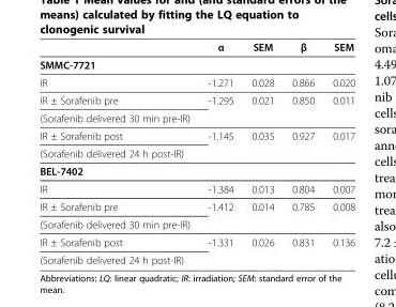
<table><thead><tr><td></td><td>α</td><td>SEM</td><td>β</td><td>SEM</td></tr></thead><tbody><tr><td colspan="5">SMMC-7721</td></tr><tr><td>IR</td><td>-1.271</td><td>0.028</td><td>0.866</td><td>0.020</td></tr><tr><td>IR ± Sorafenib pre</td><td rowspan="2">-1.295</td><td rowspan="2">0.021</td><td rowspan="2">0.850</td><td rowspan="2">0.011</td></tr><tr><td>(Sorafenib delivered 30 min pre-IR)</td></tr><tr><td>IR ± Sorafenib post</td><td rowspan="2">-1.145</td><td rowspan="2">0.035</td><td rowspan="2">0.927</td><td rowspan="2">0.017</td></tr><tr><td>(Sorafenib delivered 24 h post-IR)</td></tr><tr><td colspan="5">BEL-7402</td></tr><tr><td>IR</td><td>-1.384</td><td>0.013</td><td>0.804</td><td>0.007</td></tr><tr><td>IR ± Sorafenib pre</td><td rowspan="2">-1.412</td><td rowspan="2">0.014</td><td rowspan="2">0.785</td><td rowspan="2">0.008</td></tr><tr><td>(Sorafenib delivered 30 min pre-IR)</td></tr><tr><td>IR ± Sorafenib post</td><td rowspan="2">-1.331</td><td rowspan="2">0.026</td><td rowspan="2">0.831</td><td rowspan="2">0.136</td></tr><tr><td>(Sorafenib delivered 24 h post-IR)</td></tr></tbody></table>